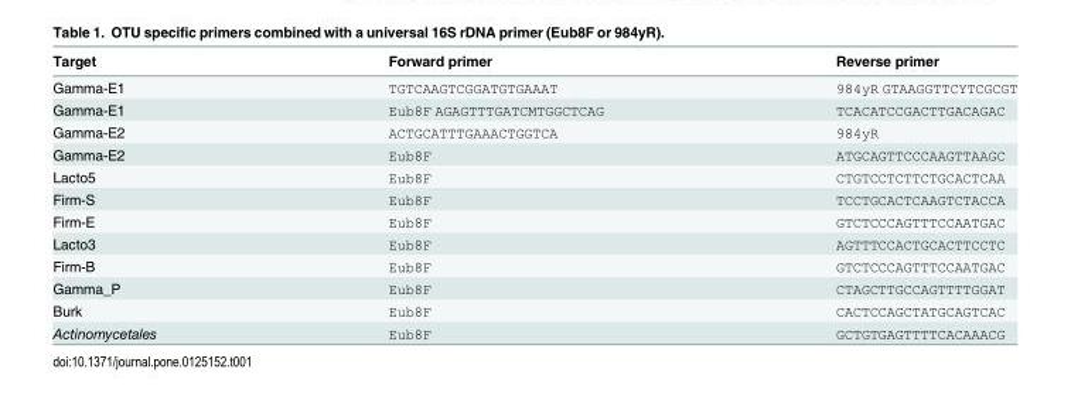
<table><thead><tr><td>Target</td><td>Forward primer</td><td>Reverse primer</td></tr></thead><tbody><tr><td>Gamma-E1</td><td>TGTCAAGTCGGATGTGAAAT</td><td>984yR GTAAGGTTCYTCGCGT</td></tr><tr><td>Gamma-E1</td><td>Eub8F AGAGTTTGATCMTGGCTCAG</td><td>TCACATCCGACTTGACAGAC</td></tr><tr><td>Gamma-E2</td><td>ACTGCATTTGAAACTGGTCA</td><td>984yR</td></tr><tr><td>Gamma-E2</td><td>Eub8F</td><td>ATGCAGTTCCCAAGTTAAGC</td></tr><tr><td>Lacto5</td><td>Eub8F</td><td>CTGTCCTCTTCTGCACTCAA</td></tr><tr><td>Firm-S</td><td>Eub8F</td><td>TCCTGCACTCAAGTCTACCA</td></tr><tr><td>Firm-E</td><td>Eub8F</td><td>GTCTCCCAGTTTCCAATGAC</td></tr><tr><td>Lacto3</td><td>Eub8F</td><td>AGTTTCCACTGCACTTCCTC</td></tr><tr><td>Firm-B</td><td>Eub8F</td><td>GTCTCCCAGTTTCCAATGAC</td></tr><tr><td>Gamma_P</td><td>Eub8F</td><td>CTAGCTTGCCAGTTTTGGAT</td></tr><tr><td>Burk</td><td>Eub8F</td><td>CACTCCAGCTATGCAGTCAC</td></tr><tr><td>Actinomycetales</td><td>Eub8F</td><td>GCTGTGAGTTTTCACAAACG</td></tr></tbody></table>